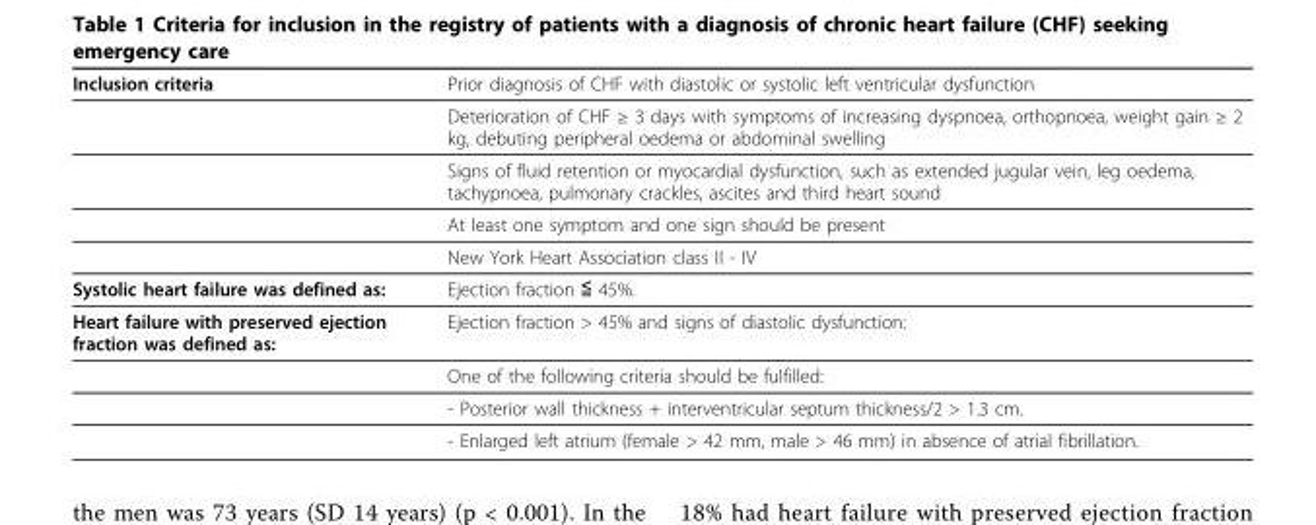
<table><thead><tr><td>Inclusion criteria</td><td>Prior diagnosis of CHF with diastolic or systolic left ventricular dysfunction</td></tr></thead><tbody><tr><td></td><td>Deterioration of CHF ≥ 3 days with symptoms of increasing dyspnoea, orthopnoea, weight gain ≥ 2 kg, debuting peripheral oedema or abdominal swelling</td></tr><tr><td></td><td>Signs of fluid retention or myocardial dysfunction, such as extended jugular vein, leg oedema, tachypnoea, pulmonary crackles, ascites and third heart sound</td></tr><tr><td></td><td>At least one symptom and one sign should be present</td></tr><tr><td></td><td>New York Heart Association class II - IV</td></tr><tr><td>Systolic heart failure was defined as:</td><td>Ejection fraction ≦ 45%.</td></tr><tr><td rowspan="4">Heart failure with preserved ejection fraction was defined as:</td><td>Ejection fraction &gt; 45% and signs of diastolic dysfunction:</td></tr><tr><td>One of the following criteria should be fulfilled:</td></tr><tr><td>- Posterior wall thickness + interventricular septum thickness/2 &gt; 1.3 cm.</td></tr><tr><td>- Enlarged left atrium (female &gt; 42 mm, male &gt; 46 mm) in absence of atrial fibrillation.</td></tr></tbody></table>